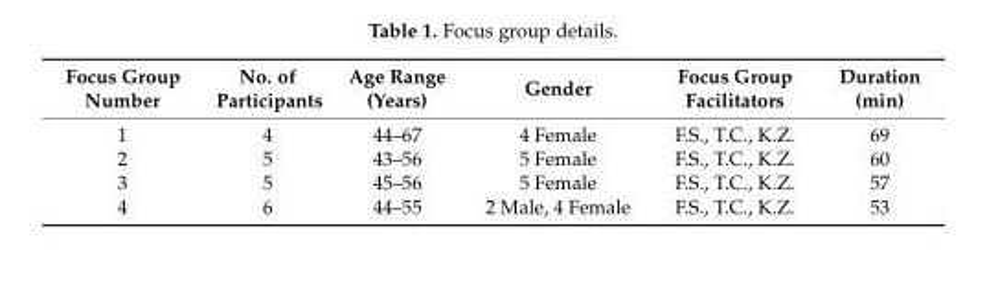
<table><thead><tr><td>Focus Group Number</td><td>No. of Participants</td><td>Age Range (Years)</td><td>Gender</td><td>Focus Group Facilitators</td><td>Duration (min)</td></tr></thead><tbody><tr><td>1</td><td>4</td><td>44–67</td><td>4 Female</td><td>F.S., T.C., K.Z.</td><td>69</td></tr><tr><td>2</td><td>5</td><td>43–56</td><td>5 Female</td><td>F.S., T.C., K.Z.</td><td>60</td></tr><tr><td>3</td><td>5</td><td>45–56</td><td>5 Female</td><td>F.S., T.C., K.Z.</td><td>57</td></tr><tr><td>4</td><td>6</td><td>44–55</td><td>2 Male, 4 Female</td><td>F.S., T.C., K.Z.</td><td>53</td></tr></tbody></table>